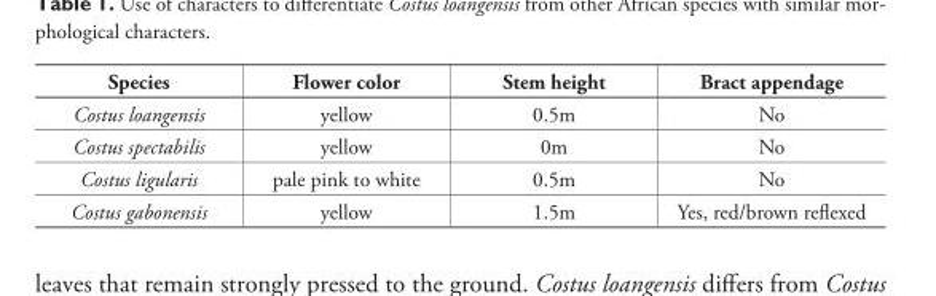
<table><thead><tr><td>Species</td><td>Flower color</td><td>Stem height</td><td>Bract appendage</td></tr></thead><tbody><tr><td>Costus loangensis</td><td>yellow</td><td>0.5m</td><td>No</td></tr><tr><td>Costus spectabilis</td><td>yellow</td><td>0m</td><td>No</td></tr><tr><td>Costus ligularis</td><td>pale pink to white</td><td>0.5m</td><td>No</td></tr><tr><td>Costus gabonensis</td><td>yellow</td><td>1.5m</td><td>Yes, red/brown refl exed</td></tr></tbody></table>